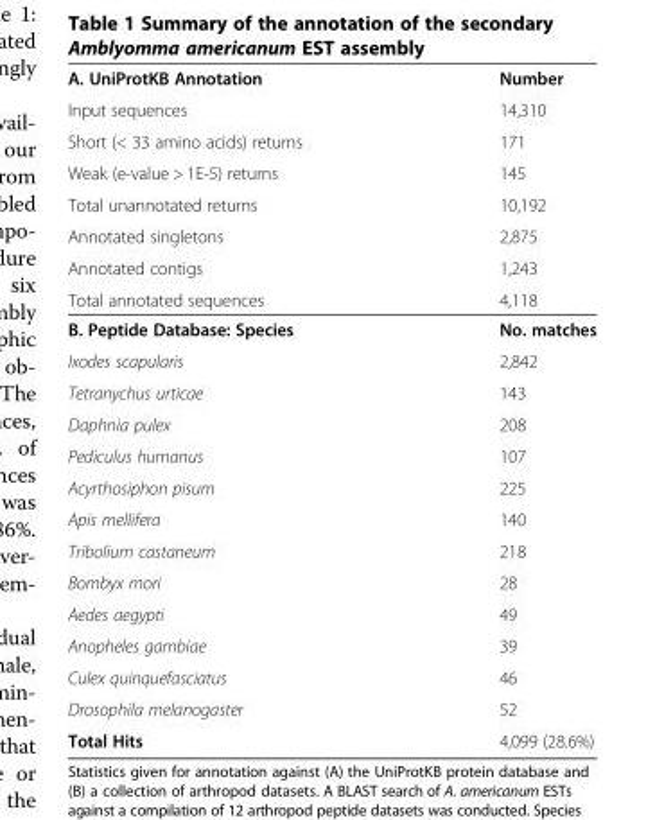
<table><tbody><tr><td>A. UniProtKB Annotation</td><td>Number</td></tr><tr><td>Input sequences</td><td>14,310</td></tr><tr><td>Short (&lt; 33 amino acids) returns</td><td>171</td></tr><tr><td>Weak (e-value &gt; 1E-5) returns</td><td>145</td></tr><tr><td>Total unannotated returns</td><td>10,192</td></tr><tr><td>Annotated singletons</td><td>2,875</td></tr><tr><td>Annotated contigs</td><td>1,243</td></tr><tr><td>Total annotated sequences</td><td>4,118</td></tr><tr><td>B. Peptide Database: Species</td><td>No. matches</td></tr><tr><td>Ixodes scapularis</td><td>2,842</td></tr><tr><td>Tetranychus urticae</td><td>143</td></tr><tr><td>Daphnia pulex</td><td>208</td></tr><tr><td>Pediculus humanus</td><td>107</td></tr><tr><td>Acyrthosiphon pisum</td><td>225</td></tr><tr><td>Apis mellifera</td><td>140</td></tr><tr><td>Tribolium castaneum</td><td>218</td></tr><tr><td>Bombyx mori</td><td>28</td></tr><tr><td>Aedes aegypti</td><td>49</td></tr><tr><td>Anopheles gambiae</td><td>39</td></tr><tr><td>Culex quinquefasciatus</td><td>46</td></tr><tr><td>Drosophila melanogaster</td><td>52</td></tr><tr><td>Total Hits</td><td>4,099 (28.6%)</td></tr></tbody></table>